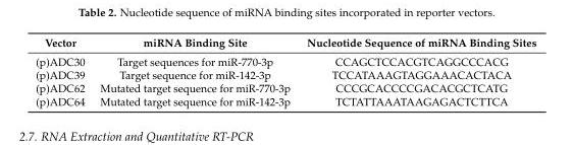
<table><thead><tr><td>Vector</td><td>miRNA Binding Site</td><td>Nucleotide Sequence of miRNA Binding Sites</td></tr></thead><tbody><tr><td>(p)ADC30</td><td>Target sequences for miR-770-3p</td><td>CCAGCTCCACGTCAGGCCCACG</td></tr><tr><td>(p)ADC39</td><td>Target sequence for miR-142-3p</td><td>TCCATAAAGTAGGAAACACTACA</td></tr><tr><td>(p)ADC62</td><td>Mutated target sequence for miR-770-3p</td><td>CCCGCACCCCGACACGCTCATG</td></tr><tr><td>(p)ADC64</td><td>Mutated target sequence for miR-142-3p</td><td>TCTATTAAATAAGAGACTCTTCA</td></tr></tbody></table>